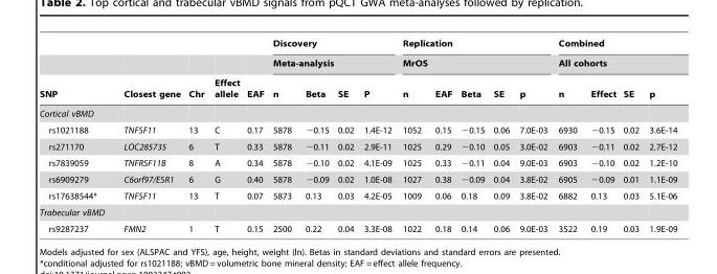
<table><thead><tr><td rowspan="3">SNP</td><td rowspan="3">Closest gene</td><td rowspan="3">Chr</td><td rowspan="3">Effect allele</td><td rowspan="3">EAF</td><td rowspan="2" colspan="4">Discovery Meta-analysis</td><td rowspan="2" colspan="5">Replication MrOS</td><td rowspan="2" colspan="4">Combined All cohorts</td></tr><tr></tr><tr><td>n</td><td>Beta</td><td>SE</td><td>P</td><td>n</td><td>EAF</td><td>Beta</td><td>SE</td><td>p</td><td>n</td><td>Effect</td><td>SE</td><td>p</td></tr></thead><tbody><tr><td colspan="18">Cortical vBMD</td></tr><tr><td>rs1021188</td><td>TNFSF11</td><td>13</td><td>C</td><td>0.17</td><td>5878</td><td>−0.15</td><td>0.02</td><td>1.4E-12</td><td>1052</td><td>0.15</td><td>−0.15</td><td>0.06</td><td>7.0E-03</td><td>6930</td><td>−0.15</td><td>0.02</td><td>3.6E-14</td></tr><tr><td>rs271170</td><td>LOC285735</td><td>6</td><td>T</td><td>0.33</td><td>5878</td><td>−0.11</td><td>0.02</td><td>2.9E-11</td><td>1025</td><td>0.29</td><td>−0.10</td><td>0.05</td><td>3.0E-02</td><td>6903</td><td>−0.11</td><td>0.02</td><td>2.7E-12</td></tr><tr><td>rs7839059</td><td>TNFRSF11B</td><td>8</td><td>A</td><td>0.34</td><td>5878</td><td>−0.10</td><td>0.02</td><td>4.1E-09</td><td>1025</td><td>0.33</td><td>−0.11</td><td>0.04</td><td>9.0E-03</td><td>6903</td><td>−0.10</td><td>0.02</td><td>1.2E-10</td></tr><tr><td>rs6909279</td><td>C6orf97/ESR1</td><td>6</td><td>G</td><td>0.40</td><td>5878</td><td>−0.09</td><td>0.02</td><td>1.0E-08</td><td>1027</td><td>0.38</td><td>−0.09</td><td>0.04</td><td>3.8E-02</td><td>6905</td><td>−0.09</td><td>0.01</td><td>1.1E-09</td></tr><tr><td>rs17638544*</td><td>TNFSF11</td><td>13</td><td>T</td><td>0.07</td><td>5873</td><td>0.13</td><td>0.03</td><td>4.2E-05</td><td>1009</td><td>0.06</td><td>0.18</td><td>0.09</td><td>3.8E-02</td><td>6882</td><td>0.13</td><td>0.03</td><td>5.1E-06</td></tr><tr><td colspan="18">Trabecular vBMD</td></tr><tr><td>rs9287237</td><td>FMN2</td><td>1</td><td>T</td><td>0.15</td><td>2500</td><td>0.22</td><td>0.04</td><td>3.3E-08</td><td>1022</td><td>0.18</td><td>0.14</td><td>0.06</td><td>9.0E-03</td><td>3522</td><td>0.19</td><td>0.03</td><td>1.9E-09</td></tr></tbody></table>